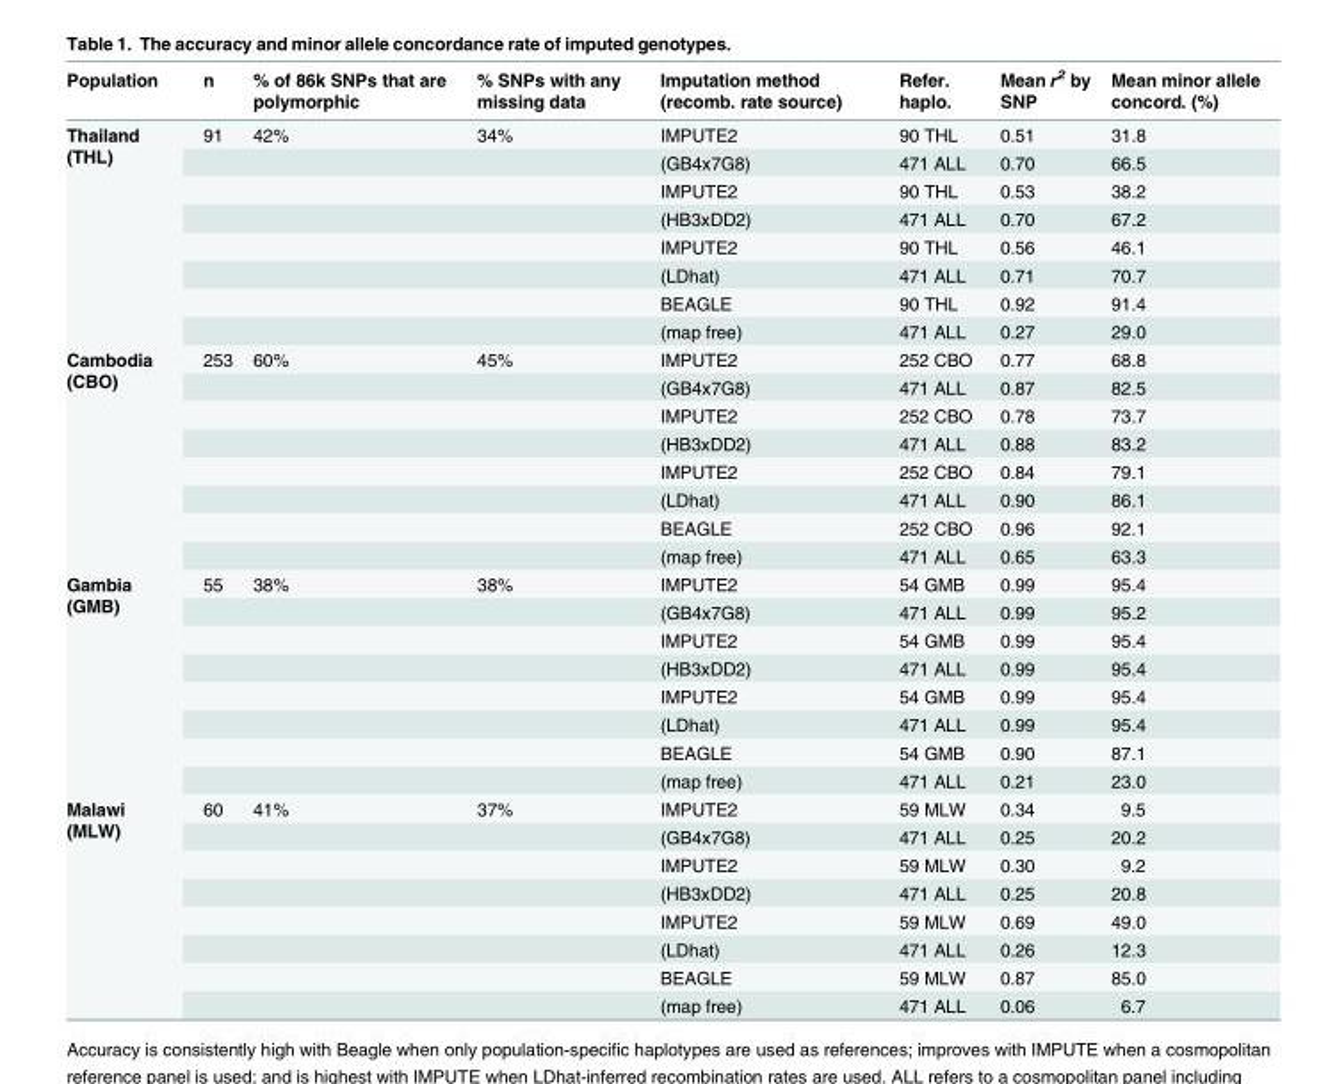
<table><thead><tr><td>Population</td><td>n</td><td>% of 86k SNPs that are polymorphic</td><td>% SNPs with any missing data</td><td>Imputation method (recomb. rate source)</td><td>Refer. haplo.</td><td>Mean r<sup>2</sup> by SNP</td><td>Mean minor allele concord. (%)</td></tr></thead><tbody><tr><td rowspan="8">Thailand (THL)</td><td>91</td><td>42%</td><td>34%</td><td>IMPUTE2</td><td>90 THL</td><td>0.51</td><td>31.8</td></tr><tr><td></td><td></td><td></td><td>(GB4x7G8)</td><td>471 ALL</td><td>0.70</td><td>66.5</td></tr><tr><td></td><td></td><td></td><td>IMPUTE2</td><td>90 THL</td><td>0.53</td><td>38.2</td></tr><tr><td></td><td></td><td></td><td>(HB3xDD2)</td><td>471 ALL</td><td>0.70</td><td>67.2</td></tr><tr><td></td><td></td><td></td><td>IMPUTE2</td><td>90 THL</td><td>0.56</td><td>46.1</td></tr><tr><td></td><td></td><td></td><td>(LDhat)</td><td>471 ALL</td><td>0.71</td><td>70.7</td></tr><tr><td></td><td></td><td></td><td>BEAGLE</td><td>90 THL</td><td>0.92</td><td>91.4</td></tr><tr><td></td><td></td><td></td><td>(map free)</td><td>471 ALL</td><td>0.27</td><td>29.0</td></tr><tr><td rowspan="8">Cambodia (CBO)</td><td>253</td><td>60%</td><td>45%</td><td>IMPUTE2</td><td>252 CBO</td><td>0.77</td><td>68.8</td></tr><tr><td></td><td></td><td></td><td>(GB4x7G8)</td><td>471 ALL</td><td>0.87</td><td>82.5</td></tr><tr><td></td><td></td><td></td><td>IMPUTE2</td><td>252 CBO</td><td>0.78</td><td>73.7</td></tr><tr><td></td><td></td><td></td><td>(HB3xDD2)</td><td>471 ALL</td><td>0.88</td><td>83.2</td></tr><tr><td></td><td></td><td></td><td>IMPUTE2</td><td>252 CBO</td><td>0.84</td><td>79.1</td></tr><tr><td></td><td></td><td></td><td>(LDhat)</td><td>471 ALL</td><td>0.90</td><td>86.1</td></tr><tr><td></td><td></td><td></td><td>BEAGLE</td><td>252 CBO</td><td>0.96</td><td>92.1</td></tr><tr><td></td><td></td><td></td><td>(map free)</td><td>471 ALL</td><td>0.65</td><td>63.3</td></tr><tr><td rowspan="8">Gambia (GMB)</td><td>55</td><td>38%</td><td>38%</td><td>IMPUTE2</td><td>54 GMB</td><td>0.99</td><td>95.4</td></tr><tr><td></td><td></td><td></td><td>(GB4x7G8)</td><td>471 ALL</td><td>0.99</td><td>95.2</td></tr><tr><td></td><td></td><td></td><td>IMPUTE2</td><td>54 GMB</td><td>0.99</td><td>95.4</td></tr><tr><td></td><td></td><td></td><td>(HB3xDD2)</td><td>471 ALL</td><td>0.99</td><td>95.4</td></tr><tr><td></td><td></td><td></td><td>IMPUTE2</td><td>54 GMB</td><td>0.99</td><td>95.4</td></tr><tr><td></td><td></td><td></td><td>(LDhat)</td><td>471 ALL</td><td>0.99</td><td>95.4</td></tr><tr><td></td><td></td><td></td><td>BEAGLE</td><td>54 GMB</td><td>0.90</td><td>87.1</td></tr><tr><td></td><td></td><td></td><td>(map free)</td><td>471 ALL</td><td>0.21</td><td>23.0</td></tr><tr><td rowspan="8">Malawi (MLW)</td><td>60</td><td>41%</td><td>37%</td><td>IMPUTE2</td><td>59 MLW</td><td>0.34</td><td>9.5</td></tr><tr><td></td><td></td><td></td><td>(GB4x7G8)</td><td>471 ALL</td><td>0.25</td><td>20.2</td></tr><tr><td></td><td></td><td></td><td>IMPUTE2</td><td>59 MLW</td><td>0.30</td><td>9.2</td></tr><tr><td></td><td></td><td></td><td>(HB3xDD2)</td><td>471 ALL</td><td>0.25</td><td>20.8</td></tr><tr><td></td><td></td><td></td><td>IMPUTE2</td><td>59 MLW</td><td>0.69</td><td>49.0</td></tr><tr><td></td><td></td><td></td><td>(LDhat)</td><td>471 ALL</td><td>0.26</td><td>12.3</td></tr><tr><td></td><td></td><td></td><td>BEAGLE</td><td>59 MLW</td><td>0.87</td><td>85.0</td></tr><tr><td></td><td></td><td></td><td>(map free)</td><td>471 ALL</td><td>0.06</td><td>6.7</td></tr></tbody></table>